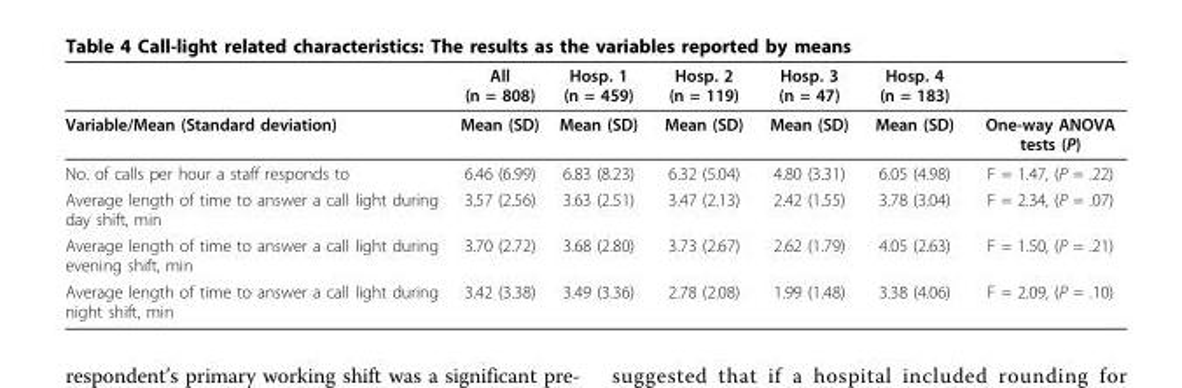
<table><thead><tr><td></td><td>All (n = 808)</td><td>Hosp. 1 (n = 459)</td><td>Hosp. 2 (n = 119)</td><td>Hosp. 3 (n = 47)</td><td>Hosp. 4 (n = 183)</td><td></td></tr></thead><tbody><tr><td>Variable/Mean (Standard deviation)</td><td>Mean (SD)</td><td>Mean (SD)</td><td>Mean (SD)</td><td>Mean (SD)</td><td>Mean (SD)</td><td>One-way ANOVA tests (P)</td></tr><tr><td>No. of calls per hour a staff responds to</td><td>6.46 (6.99)</td><td>6.83 (8.23)</td><td>6.32 (5.04)</td><td>4.80 (3.31)</td><td>6.05 (4.98)</td><td>F = 1.47, (P = .22)</td></tr><tr><td>Average length of time to answer a call light during day shift, min</td><td>3.57 (2.56)</td><td>3.63 (2.51)</td><td>3.47 (2.13)</td><td>2.42 (1.55)</td><td>3.78 (3.04)</td><td>F = 2.34, (P = .07)</td></tr><tr><td>Average length of time to answer a call light during evening shift, min</td><td>3.70 (2.72)</td><td>3.68 (2.80)</td><td>3.73 (2.67)</td><td>2.62 (1.79)</td><td>4.05 (2.63)</td><td>F = 1.50, (P = .21)</td></tr><tr><td>Average length of time to answer a call light during night shift, min</td><td>3.42 (3.38)</td><td>3.49 (3.36)</td><td>2.78 (2.08)</td><td>1.99 (1.48)</td><td>3.38 (4.06)</td><td>F = 2.09, (P = .10)</td></tr></tbody></table>